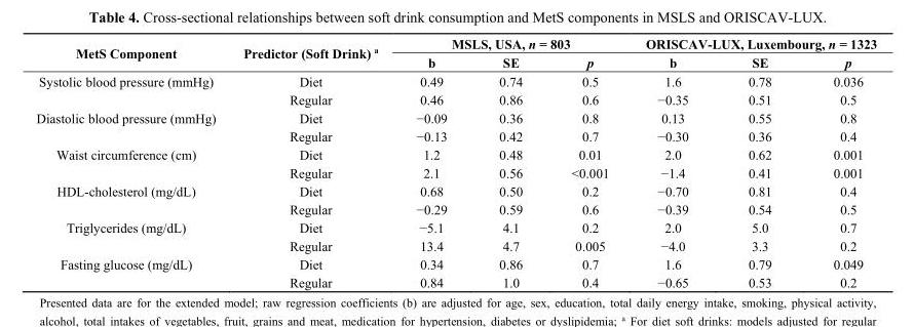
<table><thead><tr><td rowspan="2">MetS Component</td><td rowspan="2">Predictor (Soft Drink) <sup>a</sup></td><td colspan="3">MSLS, USA, n = 803</td><td colspan="3">ORISCAV-LUX, Luxembourg, n = 1323</td></tr><tr><td>b</td><td>SE</td><td>p</td><td>b</td><td>SE</td><td>p</td></tr></thead><tbody><tr><td rowspan="2">Systolic blood pressure (mmHg)</td><td>Diet</td><td>0.49</td><td>0.74</td><td>0.5</td><td>1.6</td><td>0.78</td><td>0.036</td></tr><tr><td>Regular</td><td>0.46</td><td>0.86</td><td>0.6</td><td>−0.35</td><td>0.51</td><td>0.5</td></tr><tr><td rowspan="2">Diastolic blood pressure (mmHg)</td><td>Diet</td><td>−0.09</td><td>0.36</td><td>0.8</td><td>0.13</td><td>0.55</td><td>0.8</td></tr><tr><td>Regular</td><td>−0.13</td><td>0.42</td><td>0.7</td><td>−0.30</td><td>0.36</td><td>0.4</td></tr><tr><td rowspan="2">Waist circumference (cm)</td><td>Diet</td><td>1.2</td><td>0.48</td><td>0.01</td><td>2.0</td><td>0.62</td><td>0.001</td></tr><tr><td>Regular</td><td>2.1</td><td>0.56</td><td>&lt;0.001</td><td>−1.4</td><td>0.41</td><td>0.001</td></tr><tr><td rowspan="2">HDL-cholesterol (mg/dL)</td><td>Diet</td><td>0.68</td><td>0.50</td><td>0.2</td><td>−0.70</td><td>0.81</td><td>0.4</td></tr><tr><td>Regular</td><td>−0.29</td><td>0.59</td><td>0.6</td><td>−0.39</td><td>0.54</td><td>0.5</td></tr><tr><td rowspan="2">Triglycerides (mg/dL)</td><td>Diet</td><td>−5.1</td><td>4.1</td><td>0.2</td><td>2.0</td><td>5.0</td><td>0.7</td></tr><tr><td>Regular</td><td>13.4</td><td>4.7</td><td>0.005</td><td>−4.0</td><td>3.3</td><td>0.2</td></tr><tr><td rowspan="2">Fasting glucose (mg/dL)</td><td>Diet</td><td>0.34</td><td>0.86</td><td>0.7</td><td>1.6</td><td>0.79</td><td>0.049</td></tr><tr><td>Regular</td><td>0.84</td><td>1.0</td><td>0.4</td><td>−0.65</td><td>0.53</td><td>0.2</td></tr></tbody></table>